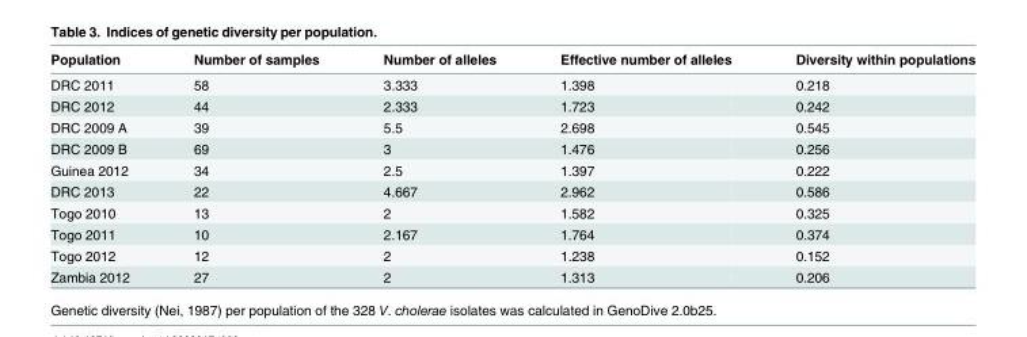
<table><thead><tr><td>Population</td><td>Number of samples</td><td>Number of alleles</td><td>Effective number of alleles</td><td>Diversity within populations</td></tr></thead><tbody><tr><td>DRC 2011</td><td>58</td><td>3.333</td><td>1.398</td><td>0.218</td></tr><tr><td>DRC 2012</td><td>44</td><td>2.333</td><td>1.723</td><td>0.242</td></tr><tr><td>DRC 2009 A</td><td>39</td><td>5.5</td><td>2.698</td><td>0.545</td></tr><tr><td>DRC 2009 B</td><td>69</td><td>3</td><td>1.476</td><td>0.256</td></tr><tr><td>Guinea 2012</td><td>34</td><td>2.5</td><td>1.397</td><td>0.222</td></tr><tr><td>DRC 2013</td><td>22</td><td>4.667</td><td>2.962</td><td>0.586</td></tr><tr><td>Togo 2010</td><td>13</td><td>2</td><td>1.582</td><td>0.325</td></tr><tr><td>Togo 2011</td><td>10</td><td>2.167</td><td>1.764</td><td>0.374</td></tr><tr><td>Togo 2012</td><td>12</td><td>2</td><td>1.238</td><td>0.152</td></tr><tr><td>Zambia 2012</td><td>27</td><td>2</td><td>1.313</td><td>0.206</td></tr></tbody></table>